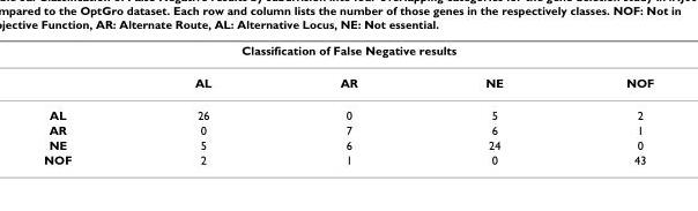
<table><thead><tr><td colspan="5">Classification of False Negative results</td></tr><tr><td></td><td>AL</td><td>AR</td><td>NE</td><td>NOF</td></tr></thead><tbody><tr><td>AL</td><td>26</td><td>0</td><td>5</td><td>2</td></tr><tr><td>AR</td><td>0</td><td>7</td><td>6</td><td>1</td></tr><tr><td>NE</td><td>5</td><td>6</td><td>24</td><td>0</td></tr><tr><td>NOF</td><td>2</td><td>1</td><td>0</td><td>43</td></tr></tbody></table>